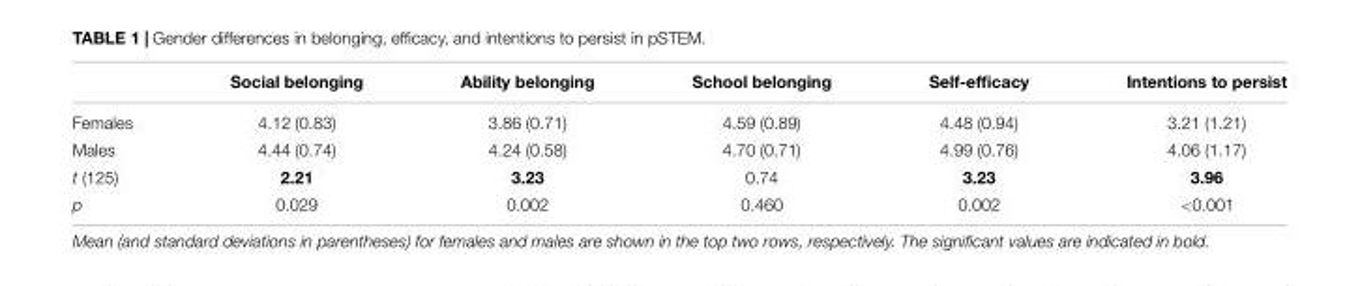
<table><thead><tr><td></td><td>Social belonging</td><td>Ability belonging</td><td>School belonging</td><td>Self-efficacy</td><td>Intentions to persist</td></tr></thead><tbody><tr><td>Females</td><td>4.12 (0.83)</td><td>3.86 (0.71)</td><td>4.59 (0.89)</td><td>4.48 (0.94)</td><td>3.21 (1.21)</td></tr><tr><td>Males</td><td>4.44 (0.74)</td><td>4.24 (0.58)</td><td>4.70 (0.71)</td><td>4.99 (0.76)</td><td>4.06 (1.17)</td></tr><tr><td>t (125)</td><td>2.21</td><td>3.23</td><td>0.74</td><td>3.23</td><td>3.96</td></tr><tr><td>p</td><td>0.029</td><td>0.002</td><td>0.460</td><td>0.002</td><td>&lt;0.001</td></tr></tbody></table>